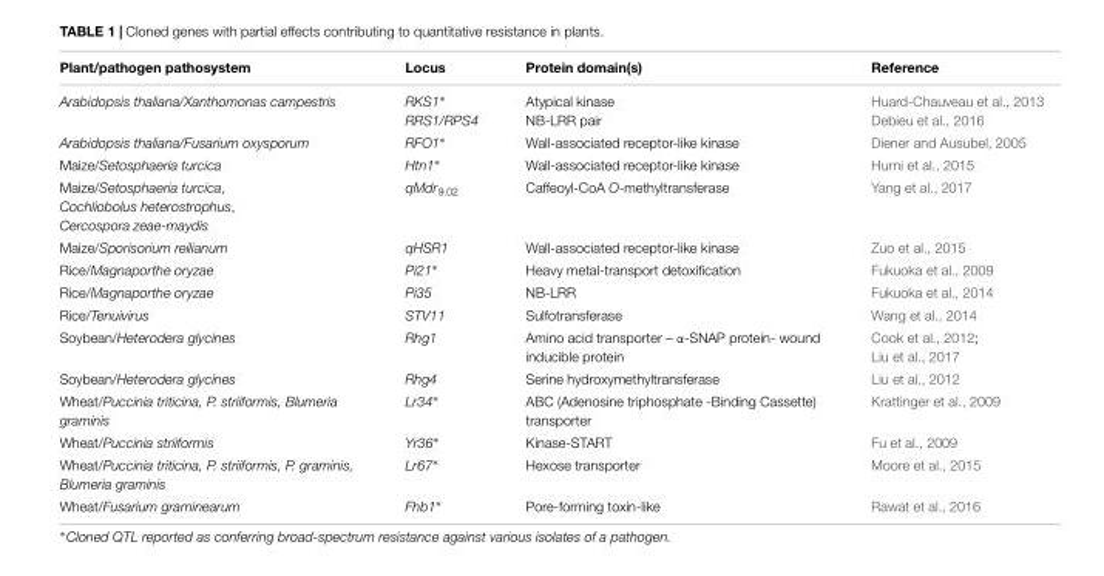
<table><thead><tr><td>Plant/pathogen pathosystem</td><td>Locus</td><td>Protein domain(s)</td><td>Reference</td></tr></thead><tbody><tr><td>Arabidopsis thaliana/Xanthomonas campestris</td><td>RKS1∗ RRS1/RPS4</td><td>Atypical kinase NB-LRR pair</td><td>Huard-Chauveau et al., 2013 Debieu et al., 2016</td></tr><tr><td>Arabidopsis thaliana/Fusarium oxysporum</td><td>RFO1∗</td><td>Wall-associated receptor-like kinase</td><td>Diener and Ausubel, 2005</td></tr><tr><td>Maize/Setosphaeria turcica</td><td>Htn1∗</td><td>Wall-associated receptor-like kinase</td><td>Hurni et al., 2015</td></tr><tr><td>Maize/Setosphaeria turcica, Cochliobolus heterostrophus, Cercospora zeae-maydis</td><td>qMdr<sub>9.02</sub></td><td>Caffeoyl-CoA O-methyltransferase</td><td>Yang et al., 2017</td></tr><tr><td>Maize/Sporisorium reilianum</td><td>qHSR1</td><td>Wall-associated receptor-like kinase</td><td>Zuo et al., 2015</td></tr><tr><td>Rice/Magnaporthe oryzae</td><td>Pi21∗</td><td>Heavy metal-transport detoxification</td><td>Fukuoka et al., 2009</td></tr><tr><td>Rice/Magnaporthe oryzae</td><td>Pi35</td><td>NB-LRR</td><td>Fukuoka et al., 2014</td></tr><tr><td>Rice/Tenuivirus</td><td>STV11</td><td>Sulfotransferase</td><td>Wang et al., 2014</td></tr><tr><td>Soybean/Heterodera glycines</td><td>Rhg1</td><td>Amino acid transporter – α-SNAP protein- wound inducible protein</td><td>Cook et al., 2012; Liu et al., 2017</td></tr><tr><td>Soybean/Heterodera glycines</td><td>Rhg4</td><td>Serine hydroxymethyltransferase</td><td>Liu et al., 2012</td></tr><tr><td>Wheat/Puccinia triticina, P. striiformis, Blumeria graminis</td><td>Lr34∗</td><td>ABC (Adenosine triphosphate -Binding Cassette) transporter</td><td>Krattinger et al., 2009</td></tr><tr><td>Wheat/Puccinia striiformis</td><td>Yr36∗</td><td>Kinase-START</td><td>Fu et al., 2009</td></tr><tr><td>Wheat/Puccinia triticina, P. striiformis, P. graminis, Blumeria graminis</td><td>Lr67∗</td><td>Hexose transporter</td><td>Moore et al., 2015</td></tr><tr><td>Wheat/Fusarium graminearum</td><td>Fhb1∗</td><td>Pore-forming toxin-like</td><td>Rawat et al., 2016</td></tr></tbody></table>